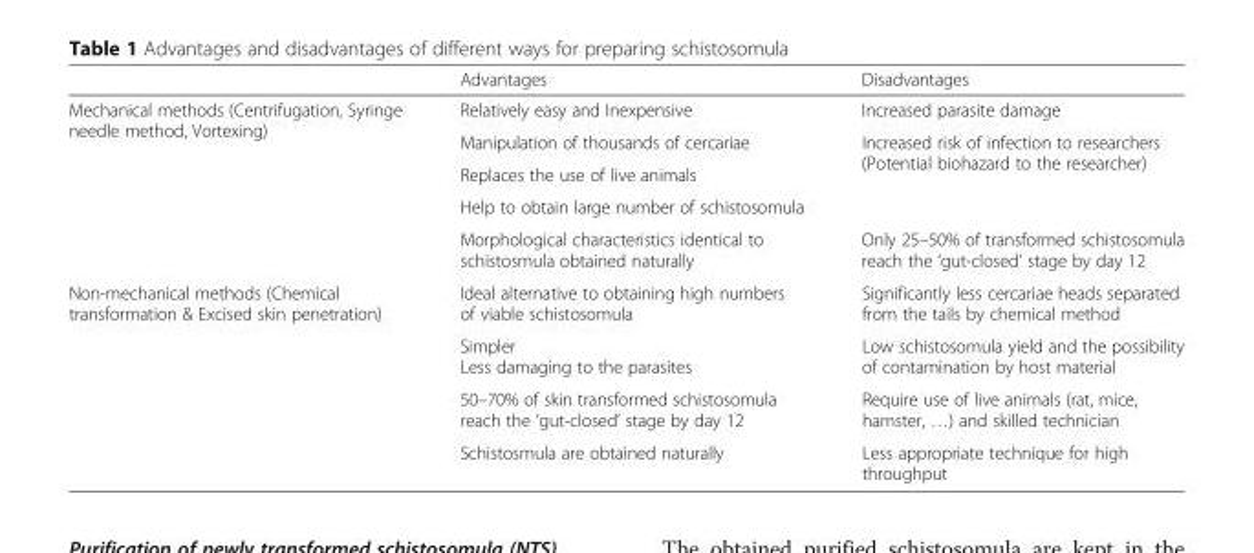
<table><thead><tr><td></td><td>Advantages</td><td>Disadvantages</td></tr></thead><tbody><tr><td rowspan="5">Mechanical methods (Centrifugation, Syringe needle method, Vortexing)</td><td>Relatively easy and Inexpensive</td><td>Increased parasite damage</td></tr><tr><td>Manipulation of thousands of cercariae</td><td rowspan="3">Increased risk of infection to researchers (Potential biohazard to the researcher)</td></tr><tr><td>Replaces the use of live animals</td></tr><tr><td>Help to obtain large number of schistosomula</td></tr><tr><td>Morphological characteristics identical to schistosmula obtained naturally</td><td>Only 25–50% of transformed schistosomula reach the ‘gut-closed’ stage by day 12</td></tr><tr><td rowspan="4">Non-mechanical methods (Chemical transformation &amp; Excised skin penetration)</td><td>Ideal alternative to obtaining high numbers of viable schistosomula</td><td>Significantly less cercariae heads separated from the tails by chemical method</td></tr><tr><td>Simpler Less damaging to the parasites</td><td>Low schistosomula yield and the possibility of contamination by host material</td></tr><tr><td>50–70% of skin transformed schistosomula reach the ‘gut-closed’ stage by day 12</td><td>Require use of live animals (rat, mice, hamster, …) and skilled technician</td></tr><tr><td>Schistosmula are obtained naturally</td><td>Less appropriate technique for high throughput</td></tr></tbody></table>